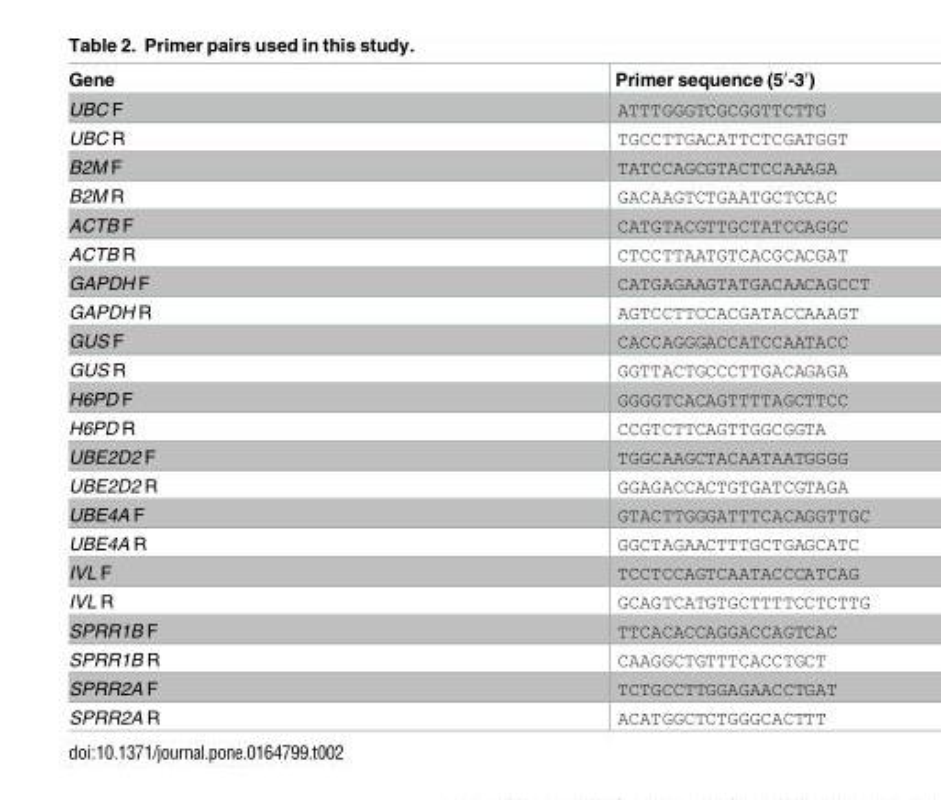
<table><thead><tr><td>Gene</td><td>Primer sequence (5′-3′)</td></tr></thead><tbody><tr><td>UBC F</td><td>ATTTGGGTCGCGGTTCTTG</td></tr><tr><td>UBC R</td><td>TGCCTTGACATTCTCGATGGT</td></tr><tr><td>B2M F</td><td>TATCCAGCGTACTCCAAAGA</td></tr><tr><td>B2M R</td><td>GACAAGTCTGAATGCTCCAC</td></tr><tr><td>ACTB F</td><td>CATGTACGTTGCTATCCAGGC</td></tr><tr><td>ACTB R</td><td>CTCCTTAATGTCACGCACGAT</td></tr><tr><td>GAPDH F</td><td>CATGAGAAGTATGACAACAGCCT</td></tr><tr><td>GAPDH R</td><td>AGTCCTTCCACGATACCAAAGT</td></tr><tr><td>GUS F</td><td>CACCAGGGACCATCCAATACC</td></tr><tr><td>GUS R</td><td>GGTTACTGCCCTTGACAGAGA</td></tr><tr><td>H6PD F</td><td>GGGGTCACAGTTTTAGCTTCC</td></tr><tr><td>H6PD R</td><td>CCGTCTTCAGTTGGCGGTA</td></tr><tr><td>UBE2D2 F</td><td>TGGCAAGCTACAATAATGGGG</td></tr><tr><td>UBE2D2 R</td><td>GGAGACCACTGTGATCGTAGA</td></tr><tr><td>UBE4A F</td><td>GTACTTGGGATTTCACAGGTTGC</td></tr><tr><td>UBE4A R</td><td>GGCTAGAACTTTGCTGAGCATC</td></tr><tr><td>IVL F</td><td>TCCTCCAGTCAATACCCATCAG</td></tr><tr><td>IVL R</td><td>GCAGTCATGTGCTTTTCCTCTTG</td></tr><tr><td>SPRR1B F</td><td>TTCACACCAGGACCAGTCAC</td></tr><tr><td>SPRR1B R</td><td>CAAGGCTGTTTCACCTGCT</td></tr><tr><td>SPRR2A F</td><td>TCTGCCTTGGAGAACCTGAT</td></tr><tr><td>SPRR2A R</td><td>ACATGGCTCTGGGCACTTT</td></tr></tbody></table>